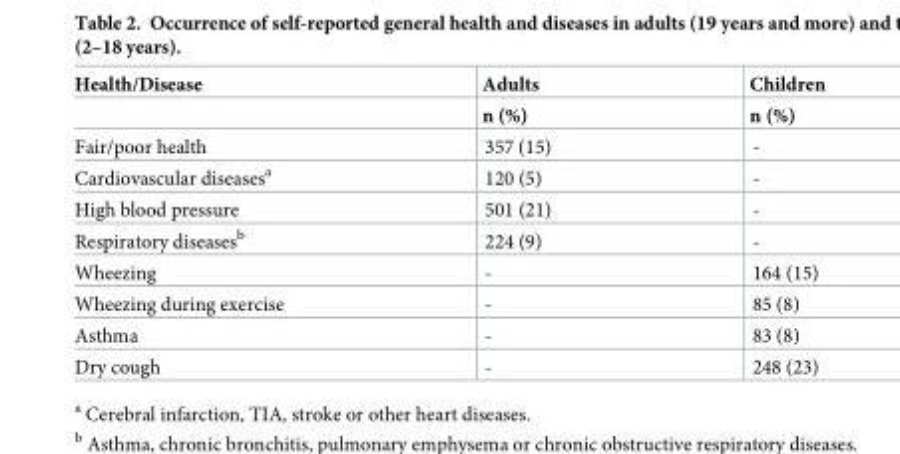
<table><thead><tr><td rowspan="2">Health/Disease</td><td rowspan="2">Adults n (%)</td><td rowspan="2">Children n (%)</td></tr><tr></tr></thead><tbody><tr><td>Fair/poor health</td><td>357 (15)</td><td>-</td></tr><tr><td>Cardiovascular diseases<sup>a</sup></td><td>120 (5)</td><td>-</td></tr><tr><td>High blood pressure</td><td>501 (21)</td><td>-</td></tr><tr><td>Respiratory diseases<sup>b</sup></td><td>224 (9)</td><td>-</td></tr><tr><td>Wheezing</td><td>-</td><td>164 (15)</td></tr><tr><td>Wheezing during exercise</td><td>-</td><td>85 (8)</td></tr><tr><td>Asthma</td><td>-</td><td>83 (8)</td></tr><tr><td>Dry cough</td><td>-</td><td>248 (23)</td></tr></tbody></table>